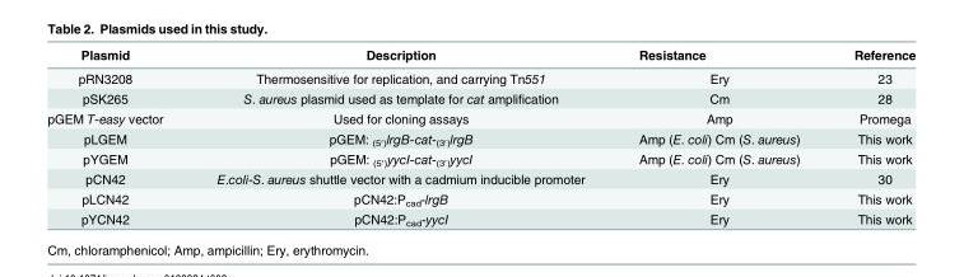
<table><thead><tr><td>Plasmid</td><td>Description</td><td>Resistance</td><td>Reference</td></tr></thead><tbody><tr><td>pRN3208</td><td>Thermosensitive for replication, and carrying Tn551</td><td>Ery</td><td>23</td></tr><tr><td>pSK265</td><td>S. aureus plasmid used as template for cat amplification</td><td>Cm</td><td>28</td></tr><tr><td>pGEM T-easy vector</td><td>Used for cloning assays</td><td>Amp</td><td>Promega</td></tr><tr><td>pLGEM</td><td>pGEM: <sub>(5′)</sub>lrgB-cat-<sub>(3′)</sub>lrgB</td><td>Amp (E. coli) Cm (S. aureus)</td><td>This work</td></tr><tr><td>pYGEM</td><td>pGEM: <sub>(5′)</sub>yycI-cat-<sub>(3′)</sub>yycI</td><td>Amp (E. coli) Cm (S. aureus)</td><td>This work</td></tr><tr><td>pCN42</td><td>E.coli-S. aureus shuttle vector with a cadmium inducible promoter</td><td>Ery</td><td>30</td></tr><tr><td>pLCN42</td><td>pCN42:P<sub>cad</sub>-lrgB</td><td>Ery</td><td>This work</td></tr><tr><td>pYCN42</td><td>pCN42:P<sub>cad</sub>-yycI</td><td>Ery</td><td>This work</td></tr></tbody></table>